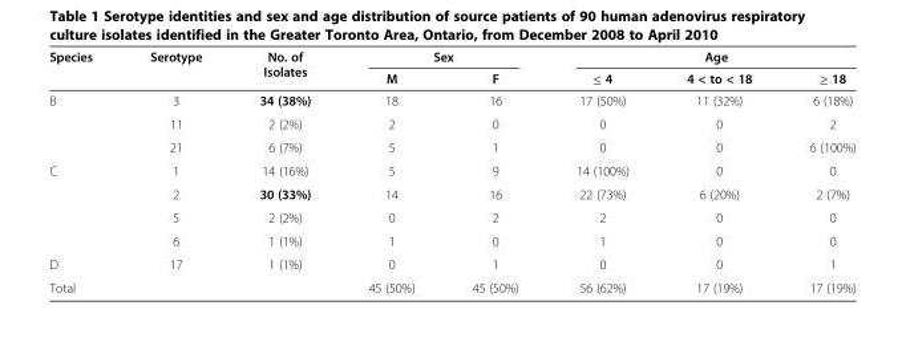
<table><thead><tr><td rowspan="2">Species</td><td rowspan="2">Serotype</td><td rowspan="2">No. of Isolates</td><td colspan="2">Sex</td><td colspan="3">Age</td></tr><tr><td>M</td><td>F</td><td>≤ 4</td><td>4 &lt; to &lt; 18</td><td>≥ 18</td></tr></thead><tbody><tr><td rowspan="3">B</td><td>3</td><td>34 (38%)</td><td>18</td><td>16</td><td>17 (50%)</td><td>11 (32%)</td><td>6 (18%)</td></tr><tr><td>11</td><td>2 (2%)</td><td>2</td><td>0</td><td>0</td><td>0</td><td>2</td></tr><tr><td>21</td><td>6 (7%)</td><td>5</td><td>1</td><td>0</td><td>0</td><td>6 (100%)</td></tr><tr><td rowspan="4">C</td><td>1</td><td>14 (16%)</td><td>5</td><td>9</td><td>14 (100%)</td><td>0</td><td>0</td></tr><tr><td>2</td><td>30 (33%)</td><td>14</td><td>16</td><td>22 (73%)</td><td>6 (20%)</td><td>2 (7%)</td></tr><tr><td>5</td><td>2 (2%)</td><td>0</td><td>2</td><td>2</td><td>0</td><td>0</td></tr><tr><td>6</td><td>1 (1%)</td><td>1</td><td>0</td><td>1</td><td>0</td><td>0</td></tr><tr><td>D</td><td>17</td><td>1 (1%)</td><td>0</td><td>1</td><td>0</td><td>0</td><td>1</td></tr><tr><td>Total</td><td></td><td></td><td>45 (50%)</td><td>45 (50%)</td><td>56 (62%)</td><td>17 (19%)</td><td>17 (19%)</td></tr></tbody></table>